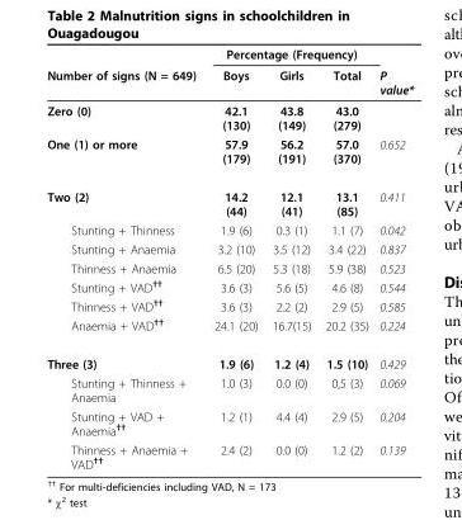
<table><thead><tr><td rowspan="2">Number of signs (N = 649)</td><td colspan="3">Percentage (Frequency)</td><td rowspan="2">P value*</td></tr><tr><td>Boys</td><td>Girls</td><td>Total</td></tr></thead><tbody><tr><td>Zero (0)</td><td>42.1 (130)</td><td>43.8 (149)</td><td>43.0 (279)</td><td></td></tr><tr><td>One (1) or more</td><td>57.9 (179)</td><td>56.2 (191)</td><td>57.0 (370)</td><td>0.652</td></tr><tr><td>Two (2)</td><td>14.2 (44)</td><td>12.1 (41)</td><td>13.1 (85)</td><td>0.411</td></tr><tr><td>Stunting + Thinness</td><td>1.9 (6)</td><td>0.3 (1)</td><td>1.1 (7)</td><td>0.042</td></tr><tr><td>Stunting + Anaemia</td><td>3.2 (10)</td><td>3.5 (12)</td><td>3.4 (22)</td><td>0.837</td></tr><tr><td>Thinness + Anaemia</td><td>6.5 (20)</td><td>5.3 (18)</td><td>5.9 (38)</td><td>0.523</td></tr><tr><td>Stunting + VAD<sup>††</sup></td><td>3.6 (3)</td><td>5.6 (5)</td><td>4.6 (8)</td><td>0.544</td></tr><tr><td>Thinness + VAD<sup>††</sup></td><td>3.6 (3)</td><td>2.2 (2)</td><td>2.9 (5)</td><td>0.585</td></tr><tr><td>Anaemia + VAD<sup>††</sup></td><td>24.1 (20)</td><td>16.7(15)</td><td>20.2 (35)</td><td>0.224</td></tr><tr><td>Three (3)</td><td>1.9 (6)</td><td>1.2 (4)</td><td>1.5 (10)</td><td>0.429</td></tr><tr><td>Stunting + Thinness + Anaemia</td><td>1.0 (3)</td><td>0.0 (0)</td><td>0,5 (3)</td><td>0.069</td></tr><tr><td>Stunting + VAD + Anaemia<sup>††</sup></td><td>1.2 (1)</td><td>4.4 (4)</td><td>2.9 (5)</td><td>0.204</td></tr><tr><td>Thinness + Anaemia + VAD<sup>††</sup></td><td>2.4 (2)</td><td>0.0 (0)</td><td>1.2 (2)</td><td>0.139</td></tr></tbody></table>